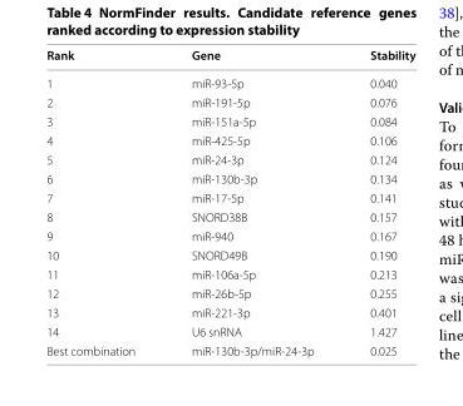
<table><thead><tr><td>Rank</td><td>Gene</td><td>Stability</td></tr></thead><tbody><tr><td>1</td><td>miR-93-5p</td><td>0.040</td></tr><tr><td>2</td><td>miR-191-5p</td><td>0.076</td></tr><tr><td>3</td><td>miR-151a-5p</td><td>0.084</td></tr><tr><td>4</td><td>miR-425-5p</td><td>0.106</td></tr><tr><td>5</td><td>miR-24-3p</td><td>0.124</td></tr><tr><td>6</td><td>miR-130b-3p</td><td>0.134</td></tr><tr><td>7</td><td>miR-17-5p</td><td>0.141</td></tr><tr><td>8</td><td>SNORD38B</td><td>0.157</td></tr><tr><td>9</td><td>miR-940</td><td>0.167</td></tr><tr><td>10</td><td>SNORD49B</td><td>0.190</td></tr><tr><td>11</td><td>miR-106a-5p</td><td>0.213</td></tr><tr><td>12</td><td>miR-26b-5p</td><td>0.255</td></tr><tr><td>13</td><td>miR-221-3p</td><td>0.401</td></tr><tr><td>14</td><td>U6 snRNA</td><td>1.427</td></tr><tr><td>Best combination</td><td>miR-130b-3p/miR-24-3p</td><td>0.025</td></tr></tbody></table>